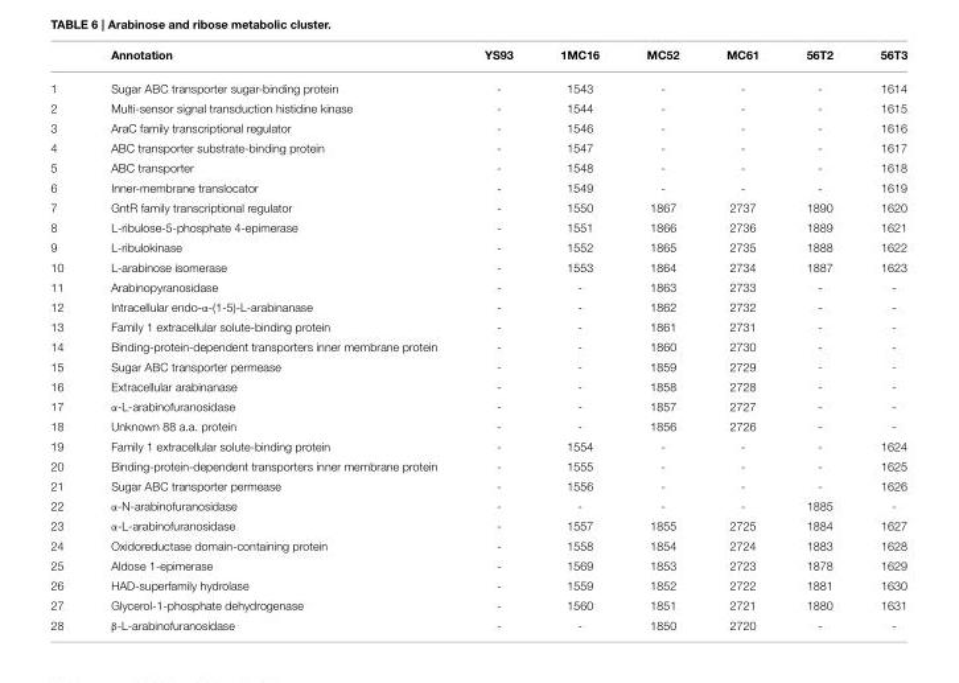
<table><thead><tr><td></td><td>Annotation</td><td>YS93</td><td>1MC16</td><td>MC52</td><td>MC61</td><td>56T2</td><td>56T3</td></tr></thead><tbody><tr><td>1</td><td>Sugar ABC transporter sugar-binding protein</td><td>-</td><td>1543</td><td>-</td><td>-</td><td>-</td><td>1614</td></tr><tr><td>2</td><td>Multi-sensor signal transduction histidine kinase</td><td>-</td><td>1544</td><td>-</td><td>-</td><td>-</td><td>1615</td></tr><tr><td>3</td><td>AraC family transcriptional regulator</td><td>-</td><td>1546</td><td>-</td><td>-</td><td>-</td><td>1616</td></tr><tr><td>4</td><td>ABC transporter substrate-binding protein</td><td>-</td><td>1547</td><td>-</td><td>-</td><td>-</td><td>1617</td></tr><tr><td>5</td><td>ABC transporter</td><td>-</td><td>1548</td><td>-</td><td>-</td><td>-</td><td>1618</td></tr><tr><td>6</td><td>Inner-membrane translocator</td><td>-</td><td>1549</td><td>-</td><td>-</td><td>-</td><td>1619</td></tr><tr><td>7</td><td>GntR family transcriptional regulator</td><td>-</td><td>1550</td><td>1867</td><td>2737</td><td>1890</td><td>1620</td></tr><tr><td>8</td><td>L-ribulose-5-phosphate 4-epimerase</td><td>-</td><td>1551</td><td>1866</td><td>2736</td><td>1889</td><td>1621</td></tr><tr><td>9</td><td>L-ribulokinase</td><td>-</td><td>1552</td><td>1865</td><td>2735</td><td>1888</td><td>1622</td></tr><tr><td>10</td><td>L-arabinose isomerase</td><td>-</td><td>1553</td><td>1864</td><td>2734</td><td>1887</td><td>1623</td></tr><tr><td>11</td><td>Arabinopyranosidase</td><td>-</td><td>-</td><td>1863</td><td>2733</td><td>-</td><td>-</td></tr><tr><td>12</td><td>Intracellular endo-α-(1-5)-L-arabinanase</td><td>-</td><td>-</td><td>1862</td><td>2732</td><td>-</td><td>-</td></tr><tr><td>13</td><td>Family 1 extracellular solute-binding protein</td><td>-</td><td>-</td><td>1861</td><td>2731</td><td>-</td><td>-</td></tr><tr><td>14</td><td>Binding-protein-dependent transporters inner membrane protein</td><td>-</td><td>-</td><td>1860</td><td>2730</td><td>-</td><td>-</td></tr><tr><td>15</td><td>Sugar ABC transporter permease</td><td>-</td><td>-</td><td>1859</td><td>2729</td><td>-</td><td>-</td></tr><tr><td>16</td><td>Extracellular arabinanase</td><td>-</td><td>-</td><td>1858</td><td>2728</td><td>-</td><td>-</td></tr><tr><td>17</td><td>α-L-arabinofuranosidase</td><td>-</td><td>-</td><td>1857</td><td>2727</td><td>-</td><td>-</td></tr><tr><td>18</td><td>Unknown 88 a.a. protein</td><td>-</td><td>-</td><td>1856</td><td>2726</td><td>-</td><td>-</td></tr><tr><td>19</td><td>Family 1 extracellular solute-binding protein</td><td>-</td><td>1554</td><td>-</td><td>-</td><td>-</td><td>1624</td></tr><tr><td>20</td><td>Binding-protein-dependent transporters inner membrane protein</td><td>-</td><td>1555</td><td>-</td><td>-</td><td>-</td><td>1625</td></tr><tr><td>21</td><td>Sugar ABC transporter permease</td><td>-</td><td>1556</td><td>-</td><td>-</td><td>-</td><td>1626</td></tr><tr><td>22</td><td>α-N-arabinofuranosidase</td><td>-</td><td>-</td><td>-</td><td>-</td><td>1885</td><td>-</td></tr><tr><td>23</td><td>α-L-arabinofuranosidase</td><td>-</td><td>1557</td><td>1855</td><td>2725</td><td>1884</td><td>1627</td></tr><tr><td>24</td><td>Oxidoreductase domain-containing protein</td><td>-</td><td>1558</td><td>1854</td><td>2724</td><td>1883</td><td>1628</td></tr><tr><td>25</td><td>Aldose 1-epimerase</td><td>-</td><td>1569</td><td>1853</td><td>2723</td><td>1878</td><td>1629</td></tr><tr><td>26</td><td>HAD-superfamily hydrolase</td><td>-</td><td>1559</td><td>1852</td><td>2722</td><td>1881</td><td>1630</td></tr><tr><td>27</td><td>Glycerol-1-phosphate dehydrogenase</td><td>-</td><td>1560</td><td>1851</td><td>2721</td><td>1880</td><td>1631</td></tr><tr><td>28</td><td>β-L-arabinofuranosidase</td><td>-</td><td>-</td><td>1850</td><td>2720</td><td>-</td><td>-</td></tr></tbody></table>